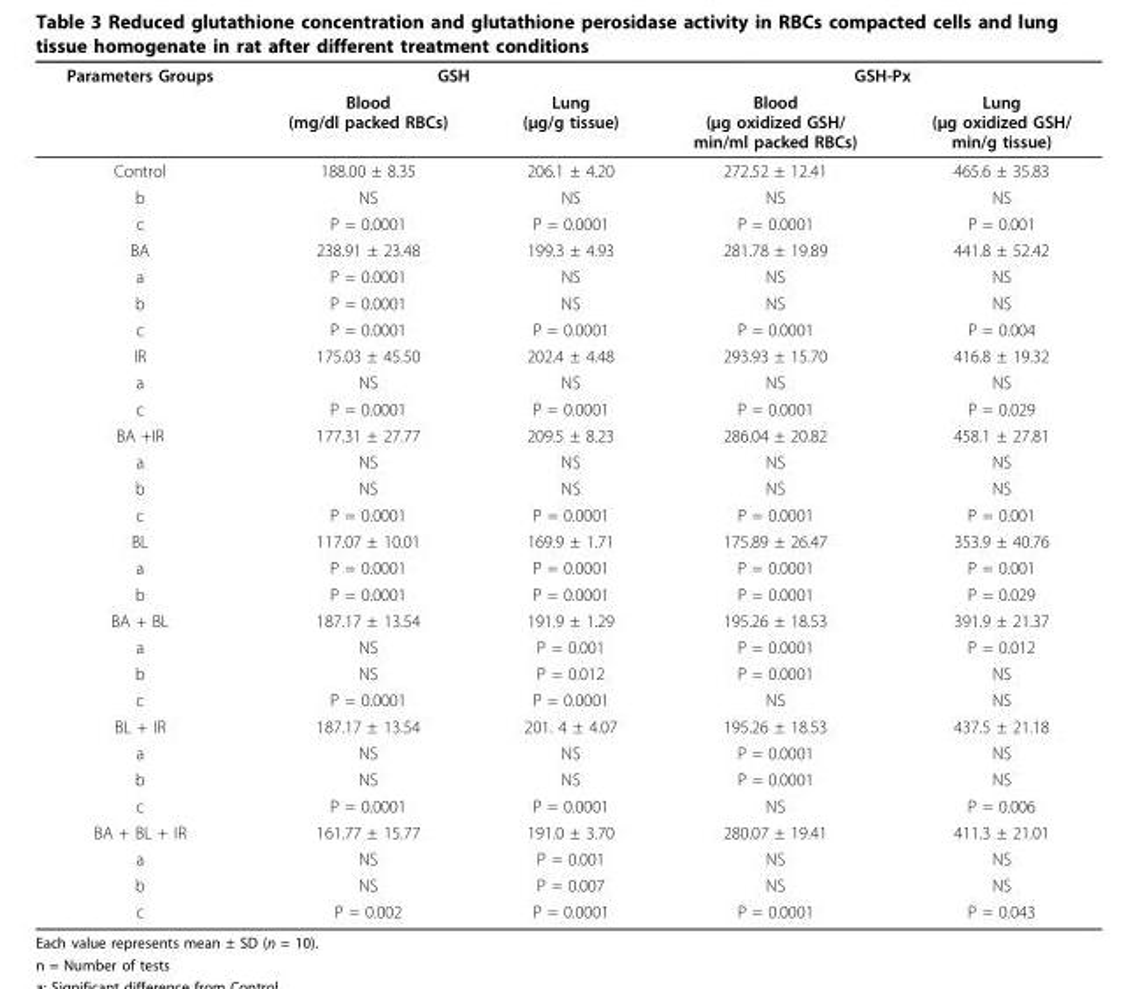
<table><thead><tr><td rowspan="2">Parameters Groups</td><td colspan="2">GSH</td><td colspan="2">GSH-Px</td></tr><tr><td>Blood (mg/dl packed RBCs)</td><td>Lung (μg/g tissue)</td><td>Blood (μg oxidized GSH/ min/ml packed RBCs)</td><td>Lung (μg oxidized GSH/ min/g tissue)</td></tr></thead><tbody><tr><td>Control</td><td>188.00 ± 8.35</td><td>206.1 ± 4.20</td><td>272.52 ± 12.41</td><td>465.6 ± 35.83</td></tr><tr><td>b</td><td>NS</td><td>NS</td><td>NS</td><td>NS</td></tr><tr><td>c</td><td>P = 0.0001</td><td>P = 0.0001</td><td>P = 0.0001</td><td>P = 0.001</td></tr><tr><td>BA</td><td>238.91 ± 23.48</td><td>199.3 ± 4.93</td><td>281.78 ± 19.89</td><td>441.8 ± 52.42</td></tr><tr><td>a</td><td>P = 0.0001</td><td>NS</td><td>NS</td><td>NS</td></tr><tr><td>b</td><td>P = 0.0001</td><td>NS</td><td>NS</td><td>NS</td></tr><tr><td>c</td><td>P = 0.0001</td><td>P = 0.0001</td><td>P = 0.0001</td><td>P = 0.004</td></tr><tr><td>IR</td><td>175.03 ± 45.50</td><td>202.4 ± 4.48</td><td>293.93 ± 15.70</td><td>416.8 ± 19.32</td></tr><tr><td>a</td><td>NS</td><td>NS</td><td>NS</td><td>NS</td></tr><tr><td>c</td><td>P = 0.0001</td><td>P = 0.0001</td><td>P = 0.0001</td><td>P = 0.029</td></tr><tr><td>BA +IR</td><td>177.31 ± 27.77</td><td>209.5 ± 8.23</td><td>286.04 ± 20.82</td><td>458.1 ± 27.81</td></tr><tr><td>a</td><td>NS</td><td>NS</td><td>NS</td><td>NS</td></tr><tr><td>b</td><td>NS</td><td>NS</td><td>NS</td><td>NS</td></tr><tr><td>c</td><td>P = 0.0001</td><td>P = 0.0001</td><td>P = 0.0001</td><td>P = 0.001</td></tr><tr><td>BL</td><td>117.07 ± 10.01</td><td>169.9 ± 1.71</td><td>175.89 ± 26.47</td><td>353.9 ± 40.76</td></tr><tr><td>a</td><td>P = 0.0001</td><td>P = 0.0001</td><td>P = 0.0001</td><td>P = 0.001</td></tr><tr><td>b</td><td>P = 0.0001</td><td>P = 0.0001</td><td>P = 0.0001</td><td>P = 0.029</td></tr><tr><td>BA + BL</td><td>187.17 ± 13.54</td><td>191.9 ± 1.29</td><td>195.26 ± 18.53</td><td>391.9 ± 21.37</td></tr><tr><td>a</td><td>NS</td><td>P = 0.001</td><td>P = 0.0001</td><td>P = 0.012</td></tr><tr><td>b</td><td>NS</td><td>P = 0.012</td><td>P = 0.0001</td><td>NS</td></tr><tr><td>c</td><td>P = 0.0001</td><td>P = 0.0001</td><td>NS</td><td>NS</td></tr><tr><td>BL + IR</td><td>187.17 ± 13.54</td><td>201. 4 ± 4.07</td><td>195.26 ± 18.53</td><td>437.5 ± 21.18</td></tr><tr><td>a</td><td>NS</td><td>NS</td><td>P = 0.0001</td><td>NS</td></tr><tr><td>b</td><td>NS</td><td>NS</td><td>P = 0.0001</td><td>NS</td></tr><tr><td>c</td><td>P = 0.0001</td><td>P = 0.0001</td><td>NS</td><td>P = 0.006</td></tr><tr><td>BA + BL + IR</td><td>161.77 ± 15.77</td><td>191.0 ± 3.70</td><td>280.07 ± 19.41</td><td>411.3 ± 21.01</td></tr><tr><td>a</td><td>NS</td><td>P = 0.001</td><td>NS</td><td>NS</td></tr><tr><td>b</td><td>NS</td><td>P = 0.007</td><td>NS</td><td>NS</td></tr><tr><td>c</td><td>P = 0.002</td><td>P = 0.0001</td><td>P = 0.0001</td><td>P = 0.043</td></tr></tbody></table>